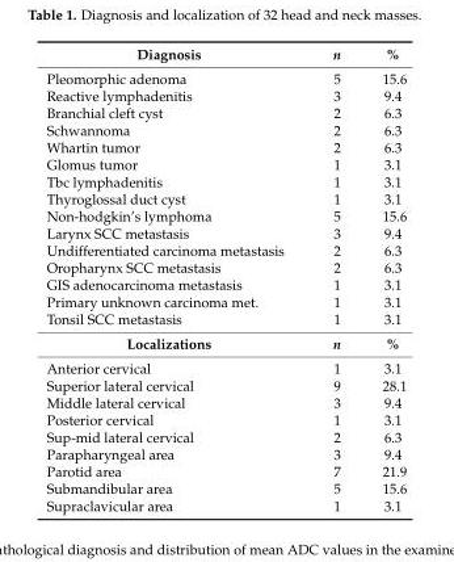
<table><tbody><tr><td>Diagnosis</td><td>n</td><td>%</td></tr><tr><td>Pleomorphic adenoma</td><td>5</td><td>15.6</td></tr><tr><td>Reactive lymphadenitis</td><td>3</td><td>9.4</td></tr><tr><td>Branchial cleft cyst</td><td>2</td><td>6.3</td></tr><tr><td>Schwannoma</td><td>2</td><td>6.3</td></tr><tr><td>Whartin tumor</td><td>2</td><td>6.3</td></tr><tr><td>Glomus tumor</td><td>1</td><td>3.1</td></tr><tr><td>Tbc lymphadenitis</td><td>1</td><td>3.1</td></tr><tr><td>Thyroglossal duct cyst</td><td>1</td><td>3.1</td></tr><tr><td>Non-hodgkin’s lymphoma</td><td>5</td><td>15.6</td></tr><tr><td>Larynx SCC metastasis</td><td>3</td><td>9.4</td></tr><tr><td>Undifferentiated carcinoma metastasis</td><td>2</td><td>6.3</td></tr><tr><td>Oropharynx SCC metastasis</td><td>2</td><td>6.3</td></tr><tr><td>GIS adenocarcinoma metastasis</td><td>1</td><td>3.1</td></tr><tr><td>Primary unknown carcinoma met.</td><td>1</td><td>3.1</td></tr><tr><td>Tonsil SCC metastasis</td><td>1</td><td>3.1</td></tr><tr><td>Localizations</td><td>n</td><td>%</td></tr><tr><td>Anterior cervical</td><td>1</td><td>3.1</td></tr><tr><td>Superior lateral cervical</td><td>9</td><td>28.1</td></tr><tr><td>Middle lateral cervical</td><td>3</td><td>9.4</td></tr><tr><td>Posterior cervical</td><td>1</td><td>3.1</td></tr><tr><td>Sup-mid lateral cervical</td><td>2</td><td>6.3</td></tr><tr><td>Parapharyngeal area</td><td>3</td><td>9.4</td></tr><tr><td>Parotid area</td><td>7</td><td>21.9</td></tr><tr><td>Submandibular area</td><td>5</td><td>15.6</td></tr><tr><td>Supraclavicular area</td><td>1</td><td>3.1</td></tr></tbody></table>